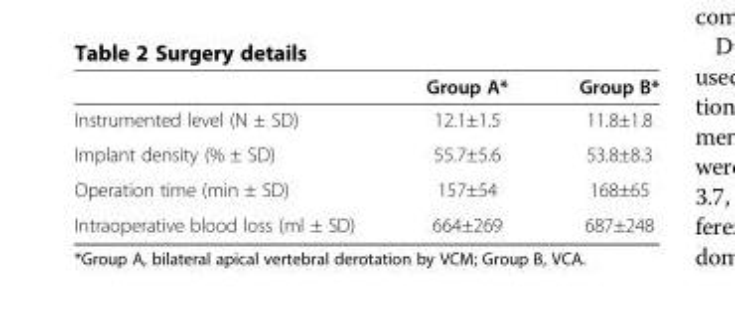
<table><thead><tr><td></td><td>Group A*</td><td>Group B*</td></tr></thead><tbody><tr><td>Instrumented level (N ± SD)</td><td>12.1±1.5</td><td>11.8±1.8</td></tr><tr><td>Implant density (% ± SD)</td><td>55.7±5.6</td><td>53.8±8.3</td></tr><tr><td>Operation time (min ± SD)</td><td>157±54</td><td>168±65</td></tr><tr><td>Intraoperative blood loss (ml ± SD)</td><td>664±269</td><td>687±248</td></tr></tbody></table>